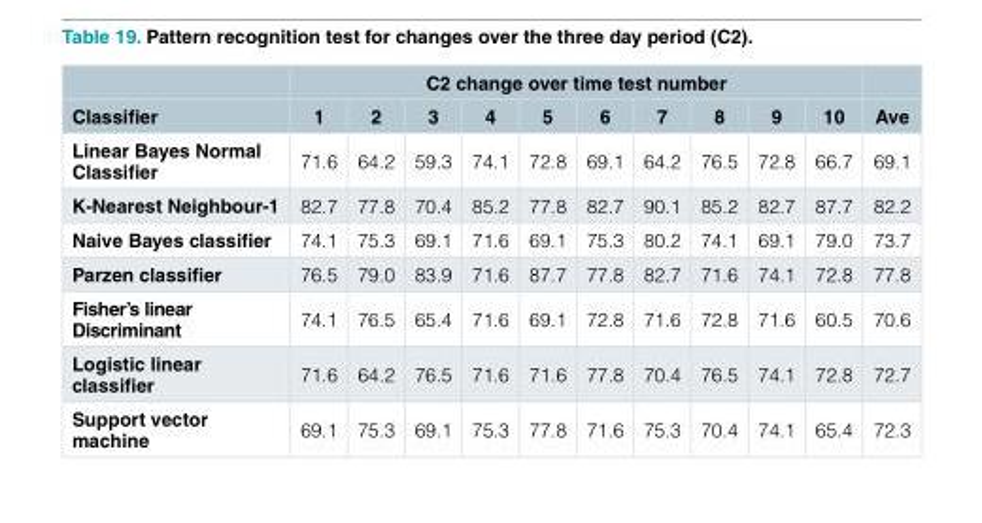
<table><thead><tr><td rowspan="2">Classifier</td><td colspan="10">C2 change over time test number</td><td rowspan="2">Ave</td></tr><tr><td>1</td><td>2</td><td>3</td><td>4</td><td>5</td><td>6</td><td>7</td><td>8</td><td>9</td><td>10</td></tr></thead><tbody><tr><td>Linear Bayes Normal Classifier</td><td>71.6</td><td>64.2</td><td>59.3</td><td>74.1</td><td>72.8</td><td>69.1</td><td>64.2</td><td>76.5</td><td>72.8</td><td>66.7</td><td>69.1</td></tr><tr><td>K-Nearest Neighbour-1</td><td>82.7</td><td>77.8</td><td>70.4</td><td>85.2</td><td>77.8</td><td>82.7</td><td>90.1</td><td>85.2</td><td>82.7</td><td>87.7</td><td>82.2</td></tr><tr><td>Naive Bayes classifier</td><td>74.1</td><td>75.3</td><td>69.1</td><td>71.6</td><td>69.1</td><td>75.3</td><td>80.2</td><td>74.1</td><td>69.1</td><td>79.0</td><td>73.7</td></tr><tr><td>Parzen classifier</td><td>76.5</td><td>79.0</td><td>83.9</td><td>71.6</td><td>87.7</td><td>77.8</td><td>82.7</td><td>71.6</td><td>74.1</td><td>72.8</td><td>77.8</td></tr><tr><td>Fisher’s linear Discriminant</td><td>74.1</td><td>76.5</td><td>65.4</td><td>71.6</td><td>69.1</td><td>72.8</td><td>71.6</td><td>72.8</td><td>71.6</td><td>60.5</td><td>70.6</td></tr><tr><td>Logistic linear classifier</td><td>71.6</td><td>64.2</td><td>76.5</td><td>71.6</td><td>71.6</td><td>77.8</td><td>70.4</td><td>76.5</td><td>74.1</td><td>72.8</td><td>72.7</td></tr><tr><td>Support vector machine</td><td>69.1</td><td>75.3</td><td>69.1</td><td>75.3</td><td>77.8</td><td>71.6</td><td>75.3</td><td>70.4</td><td>74.1</td><td>65.4</td><td>72.3</td></tr></tbody></table>